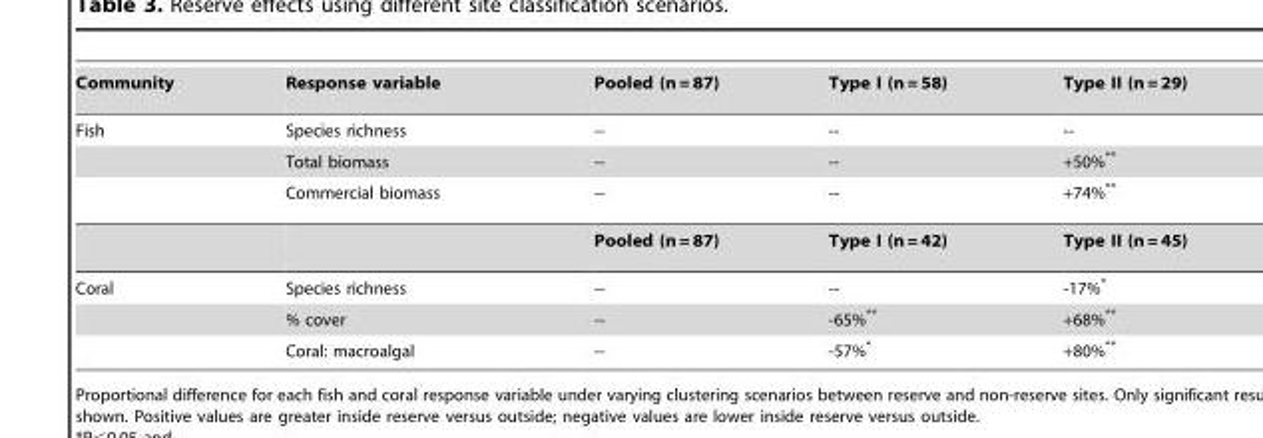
<table><tbody><tr><td>Community</td><td>Response variable</td><td>Pooled (n = 87)</td><td>Type I (n = 58)</td><td>Type II (n = 29)</td></tr><tr><td rowspan="4">Fish</td><td>Species richness</td><td>--</td><td>--</td><td>--</td></tr><tr><td>Total biomass</td><td>--</td><td>--</td><td>+50%**</td></tr><tr><td>Commercial biomass</td><td>--</td><td>--</td><td>+74%**</td></tr><tr><td></td><td>Pooled (n = 87)</td><td>Type I (n = 42)</td><td>Type II (n = 45)</td></tr><tr><td rowspan="3">Coral</td><td>Species richness</td><td>--</td><td>--</td><td>-17%*</td></tr><tr><td>% cover</td><td>--</td><td>-65%**</td><td>+68%**</td></tr><tr><td>Coral: macroalgal</td><td>--</td><td>-57%*</td><td>+80%**</td></tr></tbody></table>